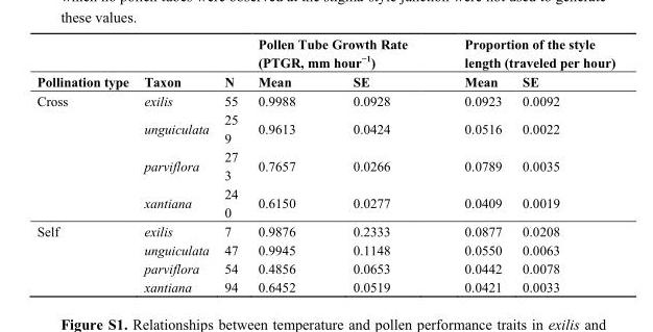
<table><thead><tr><td rowspan="2">Pollination type</td><td rowspan="2">Taxon</td><td rowspan="2">N</td><td colspan="2">Pollen Tube Growth Rate (PTGR, mm hour<sup>−1</sup>)</td><td colspan="2">Proportion of the style length (traveled per hour)</td></tr><tr><td>Mean</td><td>SE</td><td>Mean</td><td>SE</td></tr></thead><tbody><tr><td rowspan="4">Cross</td><td>exilis</td><td>55</td><td>0.9988</td><td>0.0928</td><td>0.0923</td><td>0.0092</td></tr><tr><td>unguiculata</td><td>25 9</td><td>0.9613</td><td>0.0424</td><td>0.0516</td><td>0.0022</td></tr><tr><td>parviflora</td><td>27 3</td><td>0.7657</td><td>0.0266</td><td>0.0789</td><td>0.0035</td></tr><tr><td>xantiana</td><td>24 0</td><td>0.6150</td><td>0.0277</td><td>0.0409</td><td>0.0019</td></tr><tr><td rowspan="4">Self</td><td>exilis</td><td>7</td><td>0.9876</td><td>0.2333</td><td>0.0877</td><td>0.0208</td></tr><tr><td>unguiculata</td><td>47</td><td>0.9945</td><td>0.1148</td><td>0.0550</td><td>0.0063</td></tr><tr><td>parviflora</td><td>54</td><td>0.4856</td><td>0.0653</td><td>0.0442</td><td>0.0078</td></tr><tr><td>xantiana</td><td>94</td><td>0.6452</td><td>0.0519</td><td>0.0421</td><td>0.0033</td></tr></tbody></table>